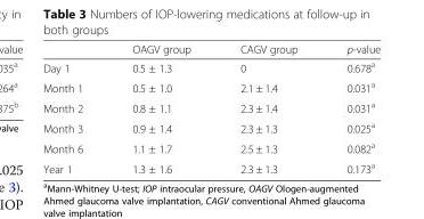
<table><thead><tr><td></td><td>OAGV group</td><td>CAGV group</td><td>p-value</td></tr></thead><tbody><tr><td>Day 1</td><td>0.5 ± 1.3</td><td>0</td><td>0.678<sup>a</sup></td></tr><tr><td>Month 1</td><td>0.5 ± 1.0</td><td>2.1 ± 1.4</td><td>0.031<sup>a</sup></td></tr><tr><td>Month 2</td><td>0.8 ± 1.1</td><td>2.3 ± 1.4</td><td>0.031<sup>a</sup></td></tr><tr><td>Month 3</td><td>0.9 ± 1.4</td><td>2.3 ± 1.3</td><td>0.025<sup>a</sup></td></tr><tr><td>Month 6</td><td>1.1 ± 1.7</td><td>2.5 ± 1.3</td><td>0.082<sup>a</sup></td></tr><tr><td>Year 1</td><td>1.3 ± 1.6</td><td>2.3 ± 1.3</td><td>0.173<sup>a</sup></td></tr></tbody></table>